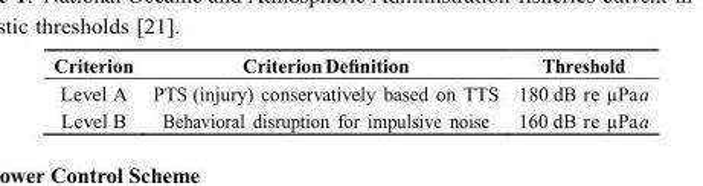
<table><thead><tr><td>Criterion</td><td>Criterion Definition</td><td>Threshold</td></tr></thead><tbody><tr><td>Level A</td><td>PTS (injury) conservatively based on TTS</td><td>180 dB re µPa a</td></tr><tr><td>Level B</td><td>Behavioral disruption for impulsive noise</td><td>160 dB re µPa a</td></tr></tbody></table>